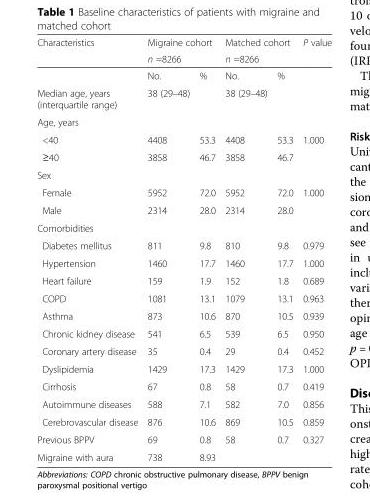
<table><thead><tr><td rowspan="3">Characteristics</td><td rowspan="2" colspan="2">Migraine cohort n =8266</td><td rowspan="2" colspan="2">Matched cohort n =8266</td><td rowspan="3">P value</td></tr><tr></tr><tr><td>No.</td><td>%</td><td>No.</td><td>%</td></tr></thead><tbody><tr><td>Median age, years (interquartile range)</td><td>38 (29–48)</td><td></td><td>38 (29–48)</td><td></td><td></td></tr><tr><td colspan="6">Age, years</td></tr><tr><td>&lt;40</td><td>4408</td><td>53.3</td><td>4408</td><td>53.3</td><td>1.000</td></tr><tr><td>≥40</td><td>3858</td><td>46.7</td><td>3858</td><td>46.7</td><td></td></tr><tr><td colspan="6">Sex</td></tr><tr><td>Female</td><td>5952</td><td>72.0</td><td>5952</td><td>72.0</td><td>1.000</td></tr><tr><td>Male</td><td>2314</td><td>28.0</td><td>2314</td><td>28.0</td><td></td></tr><tr><td colspan="6">Comorbidities</td></tr><tr><td>Diabetes mellitus</td><td>811</td><td>9.8</td><td>810</td><td>9.8</td><td>0.979</td></tr><tr><td>Hypertension</td><td>1460</td><td>17.7</td><td>1460</td><td>17.7</td><td>1.000</td></tr><tr><td>Heart failure</td><td>159</td><td>1.9</td><td>152</td><td>1.8</td><td>0.689</td></tr><tr><td>COPD</td><td>1081</td><td>13.1</td><td>1079</td><td>13.1</td><td>0.963</td></tr><tr><td>Asthma</td><td>873</td><td>10.6</td><td>870</td><td>10.5</td><td>0.939</td></tr><tr><td>Chronic kidney disease</td><td>541</td><td>6.5</td><td>539</td><td>6.5</td><td>0.950</td></tr><tr><td>Coronary artery disease</td><td>35</td><td>0.4</td><td>29</td><td>0.4</td><td>0.452</td></tr><tr><td>Dyslipidemia</td><td>1429</td><td>17.3</td><td>1429</td><td>17.3</td><td>1.000</td></tr><tr><td>Cirrhosis</td><td>67</td><td>0.8</td><td>58</td><td>0.7</td><td>0.419</td></tr><tr><td>Autoimmune diseases</td><td>588</td><td>7.1</td><td>582</td><td>7.0</td><td>0.856</td></tr><tr><td>Cerebrovascular disease</td><td>876</td><td>10.6</td><td>869</td><td>10.5</td><td>0.859</td></tr><tr><td>Previous BPPV</td><td>69</td><td>0.8</td><td>58</td><td>0.7</td><td>0.327</td></tr><tr><td>Migraine with aura</td><td>738</td><td>8.93</td><td></td><td></td><td></td></tr></tbody></table>